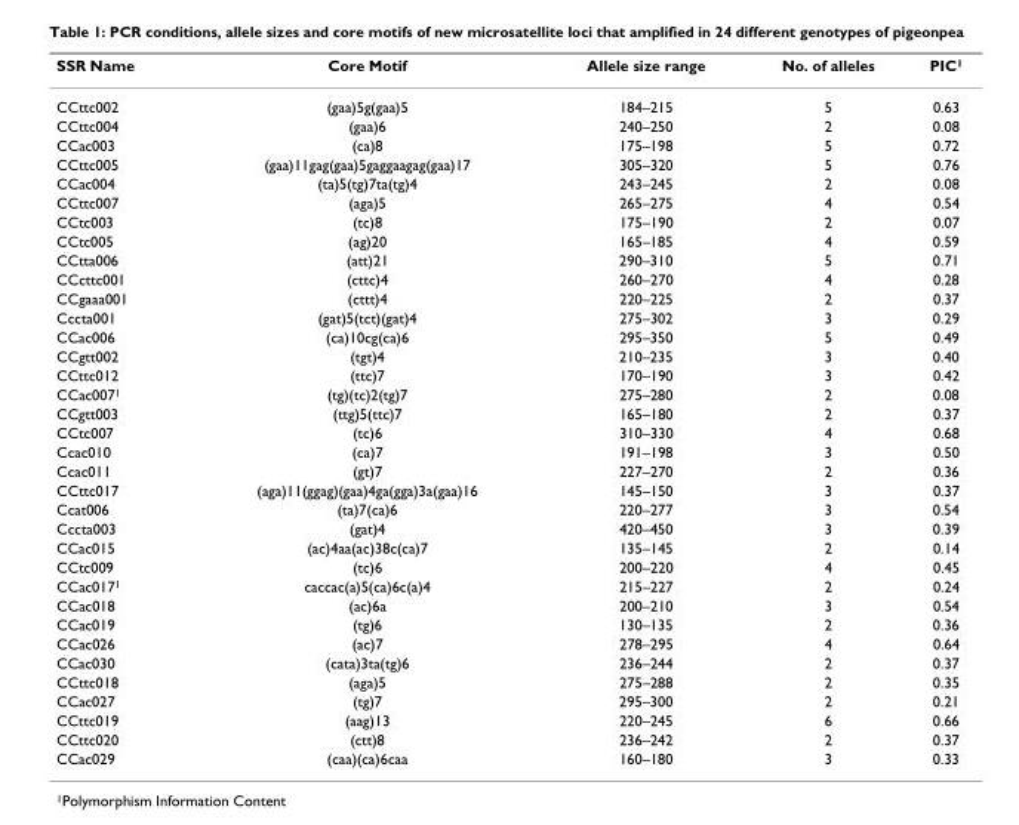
<table><thead><tr><td>SSR Name</td><td>Core Motif</td><td>Allele size range</td><td>No. of alleles</td><td>PIC<sup>1</sup></td></tr></thead><tbody><tr><td>CCttc002</td><td>(gaa)5g(gaa)5</td><td>184–215</td><td>5</td><td>0.63</td></tr><tr><td>CCttc004</td><td>(gaa)6</td><td>240–250</td><td>2</td><td>0.08</td></tr><tr><td>CCac003</td><td>(ca)8</td><td>175–198</td><td>5</td><td>0.72</td></tr><tr><td>CCttc005</td><td>(gaa)11gag(gaa)5gaggaagag(gaa)17</td><td>305–320</td><td>5</td><td>0.76</td></tr><tr><td>CCac004</td><td>(ta)5(tg)7ta(tg)4</td><td>243–245</td><td>2</td><td>0.08</td></tr><tr><td>CCttc007</td><td>(aga)5</td><td>265–275</td><td>4</td><td>0.54</td></tr><tr><td>CCtc003</td><td>(tc)8</td><td>175–190</td><td>2</td><td>0.07</td></tr><tr><td>CCtc005</td><td>(ag)20</td><td>165–185</td><td>4</td><td>0.59</td></tr><tr><td>CCtta006</td><td>(att)21</td><td>290–310</td><td>5</td><td>0.71</td></tr><tr><td>CCcttc001</td><td>(cttc)4</td><td>260–270</td><td>4</td><td>0.28</td></tr><tr><td>CCgaaa001</td><td>(cttt)4</td><td>220–225</td><td>2</td><td>0.37</td></tr><tr><td>Cccta001</td><td>(gat)5(tct)(gat)4</td><td>275–302</td><td>3</td><td>0.29</td></tr><tr><td>CCac006</td><td>(ca)10cg(ca)6</td><td>295–350</td><td>5</td><td>0.49</td></tr><tr><td>CCgtt002</td><td>(tgt)4</td><td>210–235</td><td>3</td><td>0.40</td></tr><tr><td>CCttc012</td><td>(ttc)7</td><td>170–190</td><td>3</td><td>0.42</td></tr><tr><td>CCac007<sup>1</sup></td><td>(tg)(tc)2(tg)7</td><td>275–280</td><td>2</td><td>0.08</td></tr><tr><td>CCgtt003</td><td>(ttg)5(ttc)7</td><td>165–180</td><td>2</td><td>0.37</td></tr><tr><td>CCtc007</td><td>(tc)6</td><td>310–330</td><td>4</td><td>0.68</td></tr><tr><td>Ccac010</td><td>(ca)7</td><td>191–198</td><td>3</td><td>0.50</td></tr><tr><td>Ccac011</td><td>(gt)7</td><td>227–270</td><td>2</td><td>0.36</td></tr><tr><td>CCttc017</td><td>(aga)11(ggag)(gaa)4ga(gga)3a(gaa)16</td><td>145–150</td><td>3</td><td>0.37</td></tr><tr><td>Ccat006</td><td>(ta)7(ca)6</td><td>220–277</td><td>3</td><td>0.54</td></tr><tr><td>Cccta003</td><td>(gat)4</td><td>420–450</td><td>3</td><td>0.39</td></tr><tr><td>CCac015</td><td>(ac)4aa(ac)38c(ca)7</td><td>135–145</td><td>2</td><td>0.14</td></tr><tr><td>CCtc009</td><td>(tc)6</td><td>200–220</td><td>4</td><td>0.45</td></tr><tr><td>CCac017<sup>1</sup></td><td>caccac(a)5(ca)6c(a)4</td><td>215–227</td><td>2</td><td>0.24</td></tr><tr><td>CCac018</td><td>(ac)6a</td><td>200–210</td><td>3</td><td>0.54</td></tr><tr><td>CCac019</td><td>(tg)6</td><td>130–135</td><td>2</td><td>0.36</td></tr><tr><td>CCac026</td><td>(ac)7</td><td>278–295</td><td>4</td><td>0.64</td></tr><tr><td>CCac030</td><td>(cata)3ta(tg)6</td><td>236–244</td><td>2</td><td>0.37</td></tr><tr><td>CCttc018</td><td>(aga)5</td><td>275–288</td><td>2</td><td>0.35</td></tr><tr><td>CCac027</td><td>(tg)7</td><td>295–300</td><td>2</td><td>0.21</td></tr><tr><td>CCttc019</td><td>(aag)13</td><td>220–245</td><td>6</td><td>0.66</td></tr><tr><td>CCttc020</td><td>(ctt)8</td><td>236–242</td><td>2</td><td>0.37</td></tr><tr><td>CCac029</td><td>(caa)(ca)6caa</td><td>160–180</td><td>3</td><td>0.33</td></tr></tbody></table>